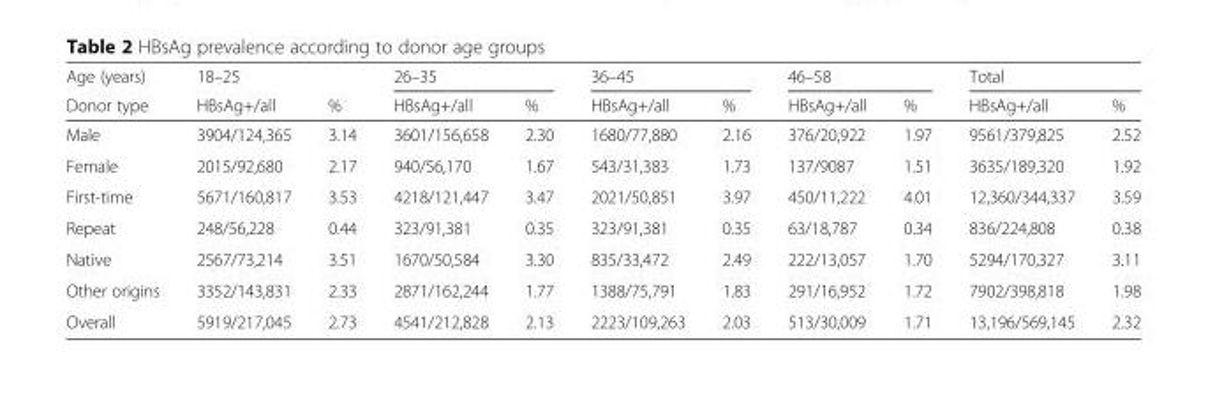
<table><thead><tr><td rowspan="2">Age (years) Donor type</td><td rowspan="2">18–25 HBsAg+/all</td><td rowspan="2">%</td><td colspan="2">26–35</td><td colspan="2">36–45</td><td colspan="2">46–58</td><td colspan="2">Total</td></tr><tr><td>HBsAg+/all</td><td>%</td><td>HBsAg+/all</td><td>%</td><td>HBsAg+/all</td><td>%</td><td>HBsAg+/all</td><td>%</td></tr></thead><tbody><tr><td>Male</td><td>3904/124,365</td><td>3.14</td><td>3601/156,658</td><td>2.30</td><td>1680/77,880</td><td>2.16</td><td>376/20,922</td><td>1.97</td><td>9561/379,825</td><td>2.52</td></tr><tr><td>Female</td><td>2015/92,680</td><td>2.17</td><td>940/56,170</td><td>1.67</td><td>543/31,383</td><td>1.73</td><td>137/9087</td><td>1.51</td><td>3635/189,320</td><td>1.92</td></tr><tr><td>First-time</td><td>5671/160,817</td><td>3.53</td><td>4218/121,447</td><td>3.47</td><td>2021/50,851</td><td>3.97</td><td>450/11,222</td><td>4.01</td><td>12,360/344,337</td><td>3.59</td></tr><tr><td>Repeat</td><td>248/56,228</td><td>0.44</td><td>323/91,381</td><td>0.35</td><td>323/91,381</td><td>0.35</td><td>63/18,787</td><td>0.34</td><td>836/224,808</td><td>0.38</td></tr><tr><td>Native</td><td>2567/73,214</td><td>3.51</td><td>1670/50,584</td><td>3.30</td><td>835/33,472</td><td>2.49</td><td>222/13,057</td><td>1.70</td><td>5294/170,327</td><td>3.11</td></tr><tr><td>Other origins</td><td>3352/143,831</td><td>2.33</td><td>2871/162,244</td><td>1.77</td><td>1388/75,791</td><td>1.83</td><td>291/16,952</td><td>1.72</td><td>7902/398,818</td><td>1.98</td></tr><tr><td>Overall</td><td>5919/217,045</td><td>2.73</td><td>4541/212,828</td><td>2.13</td><td>2223/109,263</td><td>2.03</td><td>513/30,009</td><td>1.71</td><td>13,196/569,145</td><td>2.32</td></tr></tbody></table>